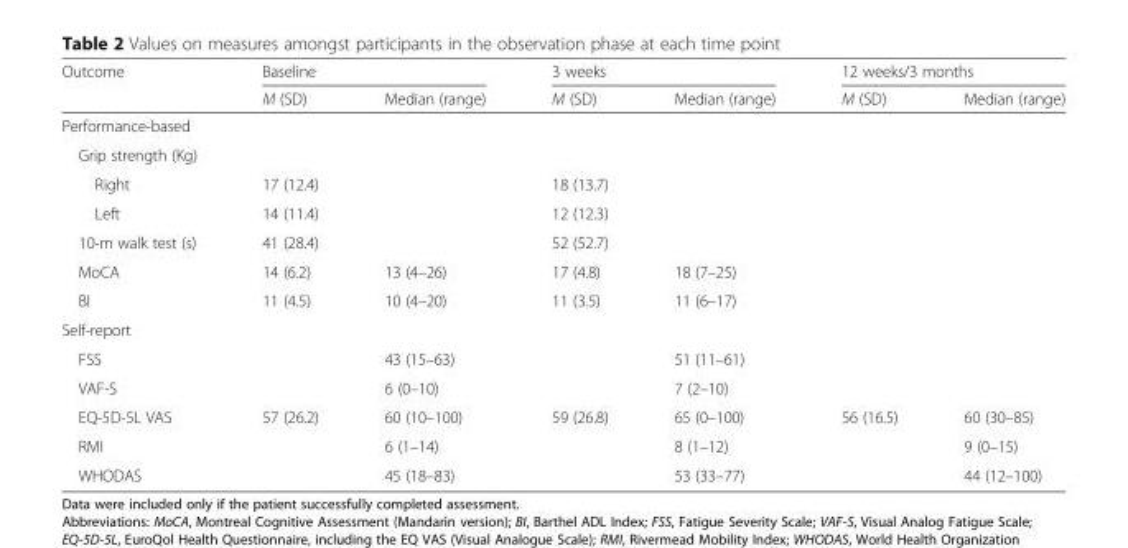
<table><thead><tr><td rowspan="2">Outcome</td><td colspan="2">Baseline</td><td colspan="2">3 weeks</td><td colspan="2">12 weeks/3 months</td></tr><tr><td>M (SD)</td><td>Median (range)</td><td>M (SD)</td><td>Median (range)</td><td>M (SD)</td><td>Median (range)</td></tr></thead><tbody><tr><td colspan="7">Performance-based</td></tr><tr><td colspan="7">Grip strength (Kg)</td></tr><tr><td>Right</td><td>17 (12.4)</td><td></td><td>18 (13.7)</td><td></td><td></td><td></td></tr><tr><td>Left</td><td>14 (11.4)</td><td></td><td>12 (12.3)</td><td></td><td></td><td></td></tr><tr><td>10-m walk test (s)</td><td>41 (28.4)</td><td></td><td>52 (52.7)</td><td></td><td></td><td></td></tr><tr><td>MoCA</td><td>14 (6.2)</td><td>13 (4–26)</td><td>17 (4.8)</td><td>18 (7–25)</td><td></td><td></td></tr><tr><td>BI</td><td>11 (4.5)</td><td>10 (4–20)</td><td>11 (3.5)</td><td>11 (6–17)</td><td></td><td></td></tr><tr><td colspan="7">Self-report</td></tr><tr><td>FSS</td><td></td><td>43 (15–63)</td><td></td><td>51 (11–61)</td><td></td><td></td></tr><tr><td>VAF-S</td><td></td><td>6 (0–10)</td><td></td><td>7 (2–10)</td><td></td><td></td></tr><tr><td>EQ-5D-5L VAS</td><td>57 (26.2)</td><td>60 (10–100)</td><td>59 (26.8)</td><td>65 (0–100)</td><td>56 (16.5)</td><td>60 (30–85)</td></tr><tr><td>RMI</td><td></td><td>6 (1–14)</td><td></td><td>8 (1–12)</td><td></td><td>9 (0–15)</td></tr><tr><td>WHODAS</td><td></td><td>45 (18–83)</td><td></td><td>53 (33–77)</td><td></td><td>44 (12–100)</td></tr></tbody></table>